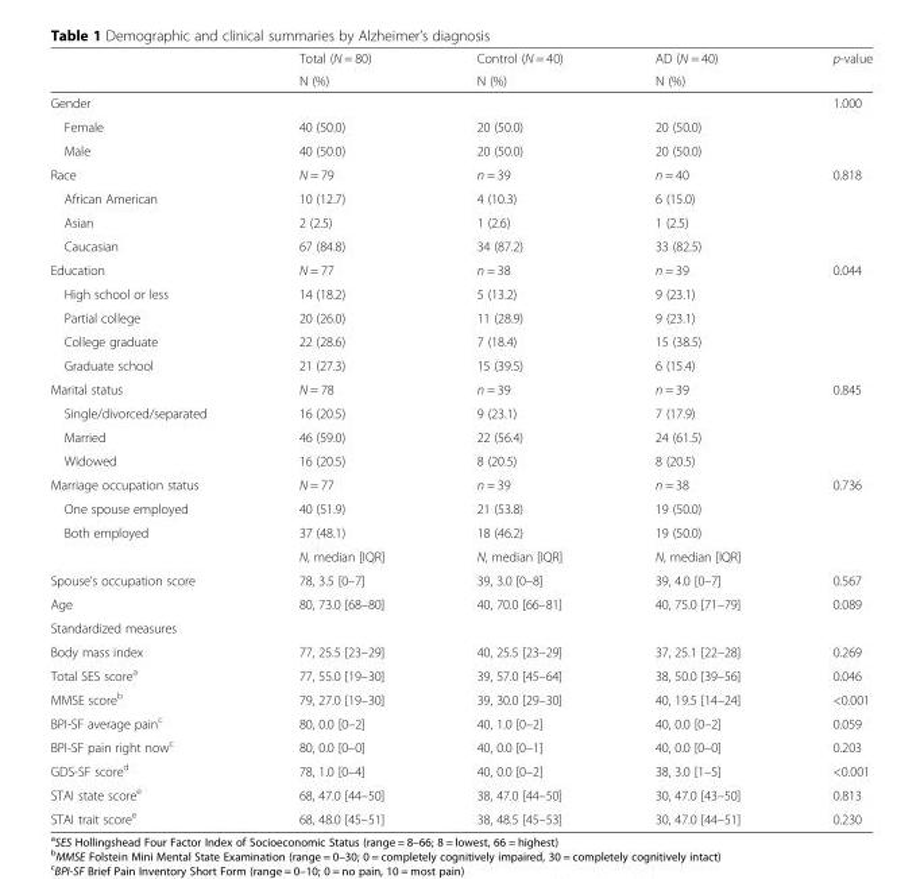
<table><thead><tr><td rowspan="2"></td><td rowspan="2">Total (N = 80) N (%)</td><td rowspan="2">Control (N = 40) N (%)</td><td rowspan="2">AD (N = 40) N (%)</td><td rowspan="2">p-value</td></tr><tr></tr></thead><tbody><tr><td>Gender</td><td></td><td></td><td></td><td>1.000</td></tr><tr><td>Female</td><td>40 (50.0)</td><td>20 (50.0)</td><td>20 (50.0)</td><td></td></tr><tr><td>Male</td><td>40 (50.0)</td><td>20 (50.0)</td><td>20 (50.0)</td><td></td></tr><tr><td>Race</td><td>N = 79</td><td>n = 39</td><td>n = 40</td><td>0.818</td></tr><tr><td>African American</td><td>10 (12.7)</td><td>4 (10.3)</td><td>6 (15.0)</td><td></td></tr><tr><td>Asian</td><td>2 (2.5)</td><td>1 (2.6)</td><td>1 (2.5)</td><td></td></tr><tr><td>Caucasian</td><td>67 (84.8)</td><td>34 (87.2)</td><td>33 (82.5)</td><td></td></tr><tr><td>Education</td><td>N = 77</td><td>n = 38</td><td>n = 39</td><td>0.044</td></tr><tr><td>High school or less</td><td>14 (18.2)</td><td>5 (13.2)</td><td>9 (23.1)</td><td></td></tr><tr><td>Partial college</td><td>20 (26.0)</td><td>11 (28.9)</td><td>9 (23.1)</td><td></td></tr><tr><td>College graduate</td><td>22 (28.6)</td><td>7 (18.4)</td><td>15 (38.5)</td><td></td></tr><tr><td>Graduate school</td><td>21 (27.3)</td><td>15 (39.5)</td><td>6 (15.4)</td><td></td></tr><tr><td>Marital status</td><td>N = 78</td><td>n = 39</td><td>n = 39</td><td>0.845</td></tr><tr><td>Single/divorced/separated</td><td>16 (20.5)</td><td>9 (23.1)</td><td>7 (17.9)</td><td></td></tr><tr><td>Married</td><td>46 (59.0)</td><td>22 (56.4)</td><td>24 (61.5)</td><td></td></tr><tr><td>Widowed</td><td>16 (20.5)</td><td>8 (20.5)</td><td>8 (20.5)</td><td></td></tr><tr><td>Marriage occupation status</td><td>N = 77</td><td>n = 39</td><td>n = 38</td><td>0.736</td></tr><tr><td>One spouse employed</td><td>40 (51.9)</td><td>21 (53.8)</td><td>19 (50.0)</td><td></td></tr><tr><td rowspan="2">Both employed</td><td>37 (48.1)</td><td>18 (46.2)</td><td>19 (50.0)</td><td></td></tr><tr><td>N, median [IQR]</td><td>N, median [IQR]</td><td>N, median [IQR]</td><td></td></tr><tr><td>Spouse’s occupation score</td><td>78, 3.5 [0–7]</td><td>39, 3.0 [0–8]</td><td>39, 4.0 [0–7]</td><td>0.567</td></tr><tr><td>Age</td><td>80, 73.0 [68–80]</td><td>40, 70.0 [66–81]</td><td>40, 75.0 [71–79]</td><td>0.089</td></tr><tr><td colspan="5">Standardized measures</td></tr><tr><td>Body mass index</td><td>77, 25.5 [23–29]</td><td>40, 25.5 [23–29]</td><td>37, 25.1 [22–28]</td><td>0.269</td></tr><tr><td>Total SES score<sup>a</sup></td><td>77, 55.0 [19–30]</td><td>39, 57.0 [45–64]</td><td>38, 50.0 [39–56]</td><td>0.046</td></tr><tr><td>MMSE score<sup>b</sup></td><td>79, 27.0 [19–30]</td><td>39, 30.0 [29–30]</td><td>40, 19.5 [14–24]</td><td>&lt;0.001</td></tr><tr><td>BPI-SF average pain<sup>c</sup></td><td>80, 0.0 [0–2]</td><td>40, 1.0 [0–2]</td><td>40, 0.0 [0–2]</td><td>0.059</td></tr><tr><td>BPI-SF pain right now<sup>c</sup></td><td>80, 0.0 [0–0]</td><td>40, 0.0 [0–1]</td><td>40, 0.0 [0–0]</td><td>0.203</td></tr><tr><td>GDS-SF score<sup>d</sup></td><td>78, 1.0 [0–4]</td><td>40, 0.0 [0–2]</td><td>38, 3.0 [1–5]</td><td>&lt;0.001</td></tr><tr><td>STAI state score<sup>e</sup></td><td>68, 47.0 [44–50]</td><td>38, 47.0 [44–50]</td><td>30, 47.0 [43–50]</td><td>0.813</td></tr><tr><td>STAI trait score<sup>e</sup></td><td>68, 48.0 [45–51]</td><td>38, 48.5 [45–53]</td><td>30, 47.0 [44–51]</td><td>0.230</td></tr></tbody></table>